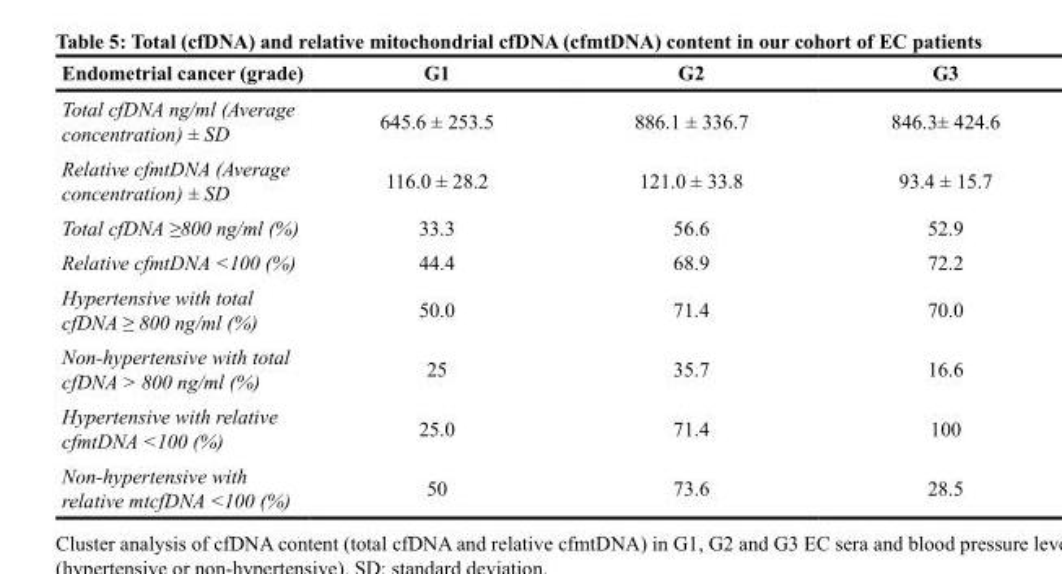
<table><thead><tr><td>Endometrial cancer (grade)</td><td>G1</td><td>G2</td><td>G3</td></tr></thead><tbody><tr><td>Total cfDNA ng/ml (Average concentration) ± SD</td><td>645.6 ± 253.5</td><td>886.1 ± 336.7</td><td>846.3± 424.6</td></tr><tr><td>Relative cfmtDNA (Average concentration) ± SD</td><td>116.0 ± 28.2</td><td>121.0 ± 33.8</td><td>93.4 ± 15.7</td></tr><tr><td>Total cfDNA ≥800 ng/ml (%)</td><td>33.3</td><td>56.6</td><td>52.9</td></tr><tr><td>Relative cfmtDNA &lt;100 (%)</td><td>44.4</td><td>68.9</td><td>72.2</td></tr><tr><td>Hypertensive with total cfDNA ≥ 800 ng/ml (%)</td><td>50.0</td><td>71.4</td><td>70.0</td></tr><tr><td>Non-hypertensive with total cfDNA &gt; 800 ng/ml (%)</td><td>25</td><td>35.7</td><td>16.6</td></tr><tr><td>Hypertensive with relative cfmtDNA &lt;100 (%)</td><td>25.0</td><td>71.4</td><td>100</td></tr><tr><td>Non-hypertensive with relative mtcfDNA &lt;100 (%)</td><td>50</td><td>73.6</td><td>28.5</td></tr></tbody></table>